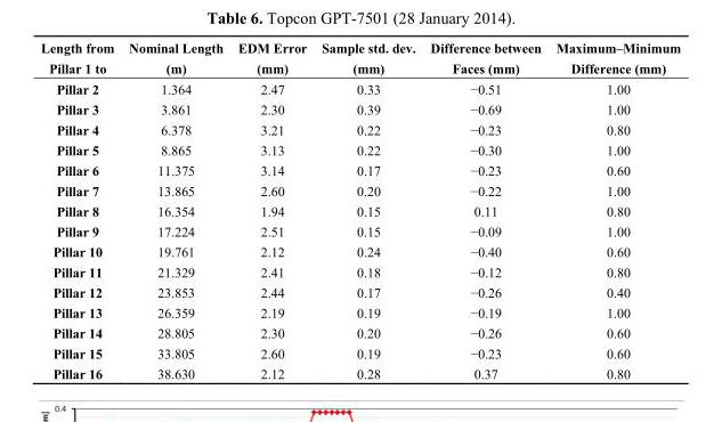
<table><thead><tr><td>Length from Pillar 1 to</td><td>Nominal Length (m)</td><td>EDM Error (mm)</td><td>Sample std. dev. (mm)</td><td>Difference between Faces (mm)</td><td>Maximum–Minimum Difference (mm)</td></tr></thead><tbody><tr><td>Pillar 2</td><td>1.364</td><td>2.47</td><td>0.33</td><td>−0.51</td><td>1.00</td></tr><tr><td>Pillar 3</td><td>3.861</td><td>2.30</td><td>0.39</td><td>−0.69</td><td>1.00</td></tr><tr><td>Pillar 4</td><td>6.378</td><td>3.21</td><td>0.22</td><td>−0.23</td><td>0.80</td></tr><tr><td>Pillar 5</td><td>8.865</td><td>3.13</td><td>0.22</td><td>−0.30</td><td>1.00</td></tr><tr><td>Pillar 6</td><td>11.375</td><td>3.14</td><td>0.17</td><td>−0.23</td><td>0.60</td></tr><tr><td>Pillar 7</td><td>13.865</td><td>2.60</td><td>0.20</td><td>−0.22</td><td>1.00</td></tr><tr><td>Pillar 8</td><td>16.354</td><td>1.94</td><td>0.15</td><td>0.11</td><td>0.80</td></tr><tr><td>Pillar 9</td><td>17.224</td><td>2.51</td><td>0.15</td><td>−0.09</td><td>1.00</td></tr><tr><td>Pillar 10</td><td>19.761</td><td>2.12</td><td>0.24</td><td>−0.40</td><td>0.60</td></tr><tr><td>Pillar 11</td><td>21.329</td><td>2.41</td><td>0.18</td><td>−0.12</td><td>0.80</td></tr><tr><td>Pillar 12</td><td>23.853</td><td>2.44</td><td>0.17</td><td>−0.26</td><td>0.40</td></tr><tr><td>Pillar 13</td><td>26.359</td><td>2.19</td><td>0.19</td><td>−0.19</td><td>1.00</td></tr><tr><td>Pillar 14</td><td>28.805</td><td>2.30</td><td>0.20</td><td>−0.26</td><td>0.60</td></tr><tr><td>Pillar 15</td><td>33.805</td><td>2.60</td><td>0.19</td><td>−0.23</td><td>0.60</td></tr><tr><td>Pillar 16</td><td>38.630</td><td>2.12</td><td>0.28</td><td>0.37</td><td>0.80</td></tr></tbody></table>